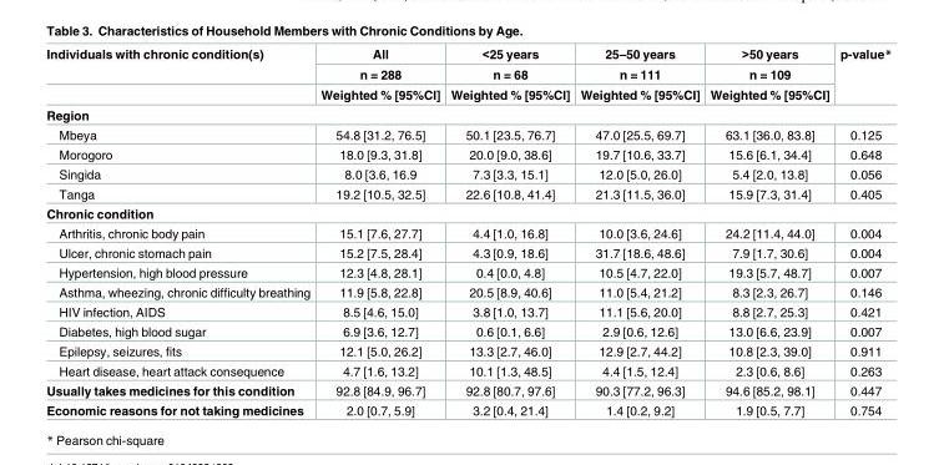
<table><thead><tr><td rowspan="3">Individuals with chronic condition(s)</td><td rowspan="3">All n = 288 Weighted % [95%CI]</td><td rowspan="3">&lt;25 years n = 68 Weighted % [95%CI]</td><td rowspan="3">25–50 years n = 111 Weighted % [95%CI]</td><td rowspan="3">&gt;50 years n = 109 Weighted % [95%CI]</td><td rowspan="3">p-value*</td></tr><tr></tr><tr></tr></thead><tbody><tr><td colspan="6">Region</td></tr><tr><td>Mbeya</td><td>54.8 [31.2, 76.5]</td><td>50.1 [23.5, 76.7]</td><td>47.0 [25.5, 69.7]</td><td>63.1 [36.0, 83.8]</td><td>0.125</td></tr><tr><td>Morogoro</td><td>18.0 [9.3, 31.8]</td><td>20.0 [9.0, 38.6]</td><td>19.7 [10.6, 33.7]</td><td>15.6 [6.1, 34.4]</td><td>0.648</td></tr><tr><td>Singida</td><td>8.0 [3.6, 16.9</td><td>7.3 [3.3, 15.1]</td><td>12.0 [5.0, 26.0]</td><td>5.4 [2.0, 13.8]</td><td>0.056</td></tr><tr><td>Tanga</td><td>19.2 [10.5, 32.5]</td><td>22.6 [10.8, 41.4]</td><td>21.3 [11.5, 36.0]</td><td>15.9 [7.3, 31.4]</td><td>0.405</td></tr><tr><td colspan="6">Chronic condition</td></tr><tr><td>Arthritis, chronic body pain</td><td>15.1 [7.6, 27.7]</td><td>4.4 [1.0, 16.8]</td><td>10.0 [3.6, 24.6]</td><td>24.2 [11.4, 44.0]</td><td>0.004</td></tr><tr><td>Ulcer, chronic stomach pain</td><td>15.2 [7.5, 28.4]</td><td>4.3 [0.9, 18.6]</td><td>31.7 [18.6, 48.6]</td><td>7.9 [1.7, 30.6]</td><td>0.004</td></tr><tr><td>Hypertension, high blood pressure</td><td>12.3 [4.8, 28.1]</td><td>0.4 [0.0, 4.8]</td><td>10.5 [4.7, 22.0]</td><td>19.3 [5.7, 48.7]</td><td>0.007</td></tr><tr><td>Asthma, wheezing, chronic difficulty breathing</td><td>11.9 [5.8, 22.8]</td><td>20.5 [8.9, 40.6]</td><td>11.0 [5.4, 21.2]</td><td>8.3 [2.3, 26.7]</td><td>0.146</td></tr><tr><td>HIV infection, AIDS</td><td>8.5 [4.6, 15.0]</td><td>3.8 [1.0, 13.7]</td><td>11.1 [5.6, 20.0]</td><td>8.8 [2.7, 25.3]</td><td>0.421</td></tr><tr><td>Diabetes, high blood sugar</td><td>6.9 [3.6, 12.7]</td><td>0.6 [0.1, 6.6]</td><td>2.9 [0.6, 12.6]</td><td>13.0 [6.6, 23.9]</td><td>0.007</td></tr><tr><td>Epilepsy, seizures, fits</td><td>12.1 [5.0, 26.2]</td><td>13.3 [2.7, 46.0]</td><td>12.9 [2.7, 44.2]</td><td>10.8 [2.3, 39.0]</td><td>0.911</td></tr><tr><td>Heart disease, heart attack consequence</td><td>4.7 [1.6, 13.2]</td><td>10.1 [1.3, 48.5]</td><td>4.4 [1.5, 12.4]</td><td>2.3 [0.6, 8.6]</td><td>0.263</td></tr><tr><td>Usually takes medicines for this condition</td><td>92.8 [84.9, 96.7]</td><td>92.8 [80.7, 97.6]</td><td>90.3 [77.2, 96.3]</td><td>94.6 [85.2, 98.1]</td><td>0.447</td></tr><tr><td>Economic reasons for not taking medicines</td><td>2.0 [0.7, 5.9]</td><td>3.2 [0.4, 21.4]</td><td>1.4 [0.2, 9.2]</td><td>1.9 [0.5, 7.7]</td><td>0.754</td></tr></tbody></table>